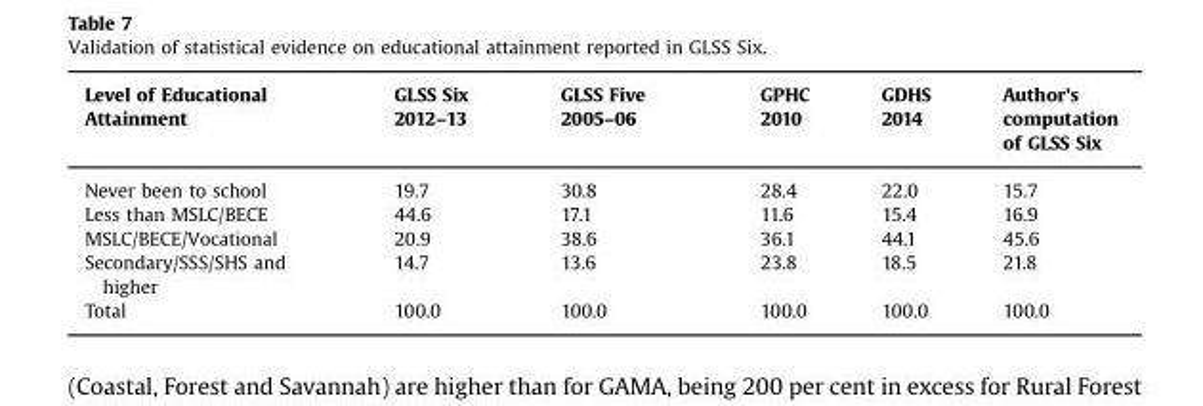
<table><thead><tr><td>Level of Educational Attainment</td><td>GLSS Six 2012–13</td><td>GLSS Five 2005–06</td><td>GPHC 2010</td><td>GDHS 2014</td><td>Author&#x27;s computation of GLSS Six</td></tr></thead><tbody><tr><td>Never been to school</td><td>19.7</td><td>30.8</td><td>28.4</td><td>22.0</td><td>15.7</td></tr><tr><td>Less than MSLC/BECE</td><td>44.6</td><td>17.1</td><td>11.6</td><td>15.4</td><td>16.9</td></tr><tr><td>MSLC/BECE/Vocational</td><td>20.9</td><td>38.6</td><td>36.1</td><td>44.1</td><td>45.6</td></tr><tr><td>Secondary/SSS/SHS and higher</td><td>14.7</td><td>13.6</td><td>23.8</td><td>18.5</td><td>21.8</td></tr><tr><td>Total</td><td>100.0</td><td>100.0</td><td>100.0</td><td>100.0</td><td>100.0</td></tr></tbody></table>